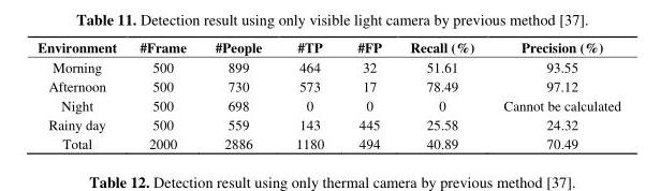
<table><thead><tr><td>Environment</td><td>#Frame</td><td>#People</td><td>#TP</td><td>#FP</td><td>Recall (%)</td><td>Precision (%)</td></tr></thead><tbody><tr><td>Morning</td><td>500</td><td>899</td><td>464</td><td>32</td><td>51.61</td><td>93.55</td></tr><tr><td>Afternoon</td><td>500</td><td>730</td><td>573</td><td>17</td><td>78.49</td><td>97.12</td></tr><tr><td>Night</td><td>500</td><td>698</td><td>0</td><td>0</td><td>0</td><td>Cannot be calculated</td></tr><tr><td>Rainy day</td><td>500</td><td>559</td><td>143</td><td>445</td><td>25.58</td><td>24.32</td></tr><tr><td>Total</td><td>2000</td><td>2886</td><td>1180</td><td>494</td><td>40.89</td><td>70.49</td></tr></tbody></table>